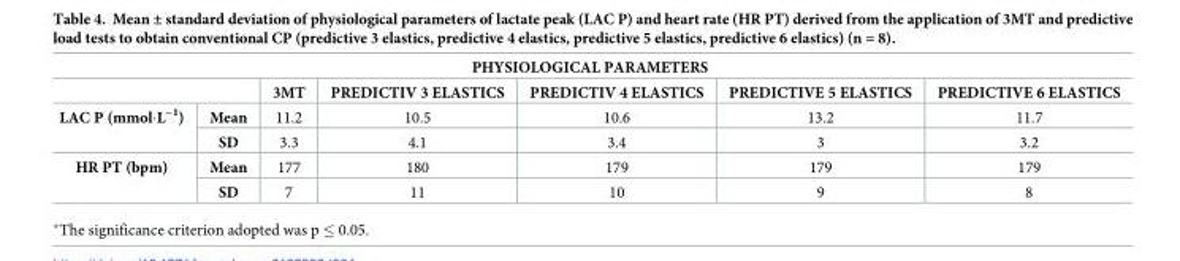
<table><thead><tr><td colspan="7">PHYSIOLOGICAL PARAMETERS</td></tr><tr><td></td><td></td><td>3MT</td><td>PREDICTIV 3 ELASTICS</td><td>PREDICTIV 4 ELASTICS</td><td>PREDICTIVE 5 ELASTICS</td><td>PREDICTIVE 6 ELASTICS</td></tr></thead><tbody><tr><td rowspan="2">LAC P (mmol·L<sup>−1</sup>)</td><td>Mean</td><td>11.2</td><td>10.5</td><td>10.6</td><td>13.2</td><td>11.7</td></tr><tr><td>SD</td><td>3.3</td><td>4.1</td><td>3.4</td><td>3</td><td>3.2</td></tr><tr><td rowspan="2">HR PT (bpm)</td><td>Mean</td><td>177</td><td>180</td><td>179</td><td>179</td><td>179</td></tr><tr><td>SD</td><td>7</td><td>11</td><td>10</td><td>9</td><td>8</td></tr></tbody></table>